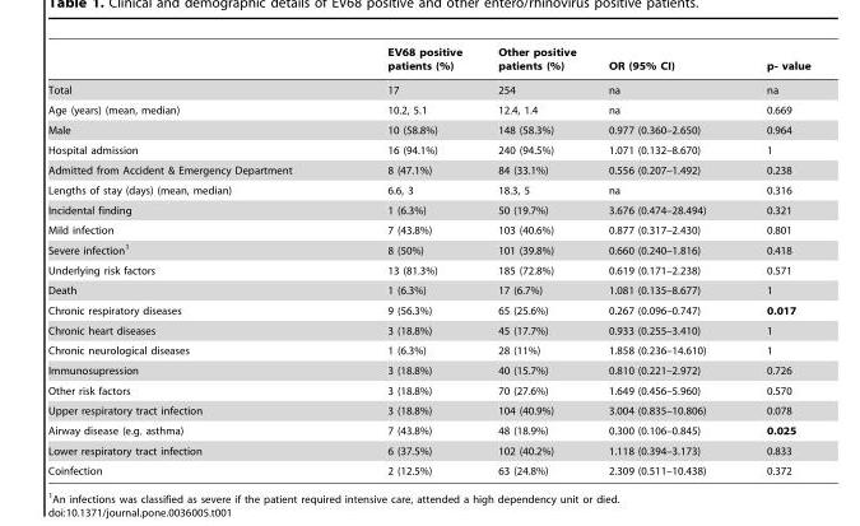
<table><thead><tr><td></td><td>EV68 positive patients (%)</td><td>Other positive patients (%)</td><td>OR (95% CI)</td><td>p- value</td></tr></thead><tbody><tr><td>Total</td><td>17</td><td>254</td><td>na</td><td>na</td></tr><tr><td>Age (years) (mean, median)</td><td>10.2, 5.1</td><td>12.4, 1.4</td><td>na</td><td>0.669</td></tr><tr><td>Male</td><td>10 (58.8%)</td><td>148 (58.3%)</td><td>0.977 (0.360–2.650)</td><td>0.964</td></tr><tr><td>Hospital admission</td><td>16 (94.1%)</td><td>240 (94.5%)</td><td>1.071 (0.132–8.670)</td><td>1</td></tr><tr><td>Admitted from Accident &amp; Emergency Department</td><td>8 (47.1%)</td><td>84 (33.1%)</td><td>0.556 (0.207–1.492)</td><td>0.238</td></tr><tr><td>Lengths of stay (days) (mean, median)</td><td>6.6, 3</td><td>18.3, 5</td><td>na</td><td>0.316</td></tr><tr><td>Incidental finding</td><td>1 (6.3%)</td><td>50 (19.7%)</td><td>3.676 (0.474–28.494)</td><td>0.321</td></tr><tr><td>Mild infection</td><td>7 (43.8%)</td><td>103 (40.6%)</td><td>0.877 (0.317–2.430)</td><td>0.801</td></tr><tr><td>Severe infection<sup>1</sup></td><td>8 (50%)</td><td>101 (39.8%)</td><td>0.660 (0.240–1.816)</td><td>0.418</td></tr><tr><td>Underlying risk factors</td><td>13 (81.3%)</td><td>185 (72.8%)</td><td>0.619 (0.171–2.238)</td><td>0.571</td></tr><tr><td>Death</td><td>1 (6.3%)</td><td>17 (6.7%)</td><td>1.081 (0.135–8.677)</td><td>1</td></tr><tr><td>Chronic respiratory diseases</td><td>9 (56.3%)</td><td>65 (25.6%)</td><td>0.267 (0.096–0.747)</td><td>0.017</td></tr><tr><td>Chronic heart diseases</td><td>3 (18.8%)</td><td>45 (17.7%)</td><td>0.933 (0.255–3.410)</td><td>1</td></tr><tr><td>Chronic neurological diseases</td><td>1 (6.3%)</td><td>28 (11%)</td><td>1.858 (0.236–14.610)</td><td>1</td></tr><tr><td>Immunosupression</td><td>3 (18.8%)</td><td>40 (15.7%)</td><td>0.810 (0.221–2.972)</td><td>0.726</td></tr><tr><td>Other risk factors</td><td>3 (18.8%)</td><td>70 (27.6%)</td><td>1.649 (0.456–5.960)</td><td>0.570</td></tr><tr><td>Upper respiratory tract infection</td><td>3 (18.8%)</td><td>104 (40.9%)</td><td>3.004 (0.835–10.806)</td><td>0.078</td></tr><tr><td>Airway disease (e.g. asthma)</td><td>7 (43.8%)</td><td>48 (18.9%)</td><td>0.300 (0.106–0.845)</td><td>0.025</td></tr><tr><td>Lower respiratory tract infection</td><td>6 (37.5%)</td><td>102 (40.2%)</td><td>1.118 (0.394–3.173)</td><td>0.833</td></tr><tr><td>Coinfection</td><td>2 (12.5%)</td><td>63 (24.8%)</td><td>2.309 (0.511–10.438)</td><td>0.372</td></tr></tbody></table>